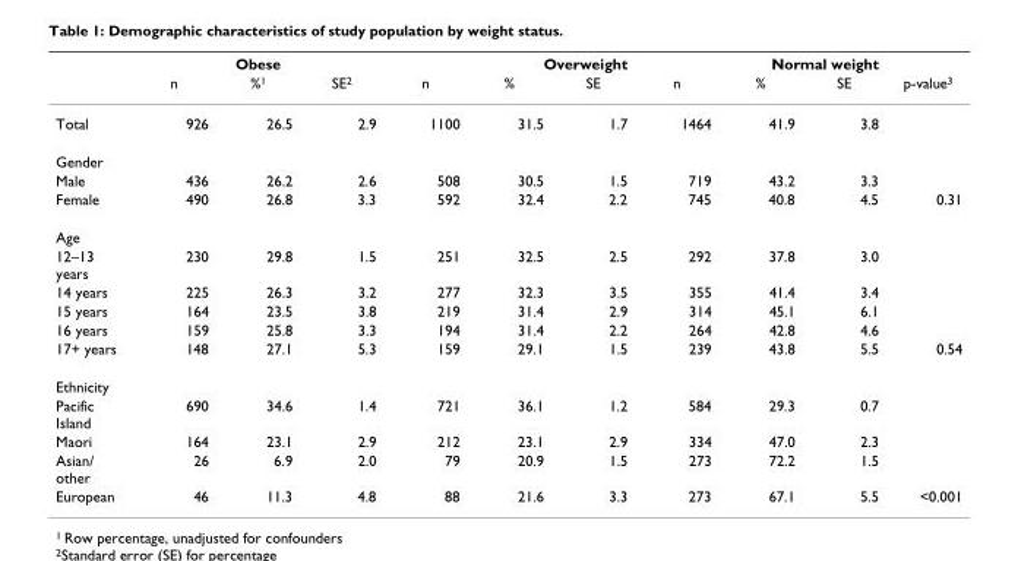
<table><thead><tr><td rowspan="2"></td><td colspan="3">Obese</td><td colspan="3">Overweight</td><td colspan="3">Normal weight</td><td rowspan="2">p-value<sup>3</sup></td></tr><tr><td>n</td><td>%<sup>1</sup></td><td>SE<sup>2</sup></td><td>n</td><td>%</td><td>SE</td><td>n</td><td>%</td><td>SE</td></tr></thead><tbody><tr><td>Total</td><td>926</td><td>26.5</td><td>2.9</td><td>1100</td><td>31.5</td><td>1.7</td><td>1464</td><td>41.9</td><td>3.8</td><td></td></tr><tr><td colspan="11">Gender</td></tr><tr><td>Male</td><td>436</td><td>26.2</td><td>2.6</td><td>508</td><td>30.5</td><td>1.5</td><td>719</td><td>43.2</td><td>3.3</td><td></td></tr><tr><td>Female</td><td>490</td><td>26.8</td><td>3.3</td><td>592</td><td>32.4</td><td>2.2</td><td>745</td><td>40.8</td><td>4.5</td><td>0.31</td></tr><tr><td colspan="11">Age</td></tr><tr><td>12–13 years</td><td>230</td><td>29.8</td><td>1.5</td><td>251</td><td>32.5</td><td>2.5</td><td>292</td><td>37.8</td><td>3.0</td><td></td></tr><tr><td>14 years</td><td>225</td><td>26.3</td><td>3.2</td><td>277</td><td>32.3</td><td>3.5</td><td>355</td><td>41.4</td><td>3.4</td><td></td></tr><tr><td>15 years</td><td>164</td><td>23.5</td><td>3.8</td><td>219</td><td>31.4</td><td>2.9</td><td>314</td><td>45.1</td><td>6.1</td><td></td></tr><tr><td>16 years</td><td>159</td><td>25.8</td><td>3.3</td><td>194</td><td>31.4</td><td>2.2</td><td>264</td><td>42.8</td><td>4.6</td><td></td></tr><tr><td>17+ years</td><td>148</td><td>27.1</td><td>5.3</td><td>159</td><td>29.1</td><td>1.5</td><td>239</td><td>43.8</td><td>5.5</td><td>0.54</td></tr><tr><td colspan="11">Ethnicity</td></tr><tr><td>Pacific Island</td><td>690</td><td>34.6</td><td>1.4</td><td>721</td><td>36.1</td><td>1.2</td><td>584</td><td>29.3</td><td>0.7</td><td></td></tr><tr><td>Maori</td><td>164</td><td>23.1</td><td>2.9</td><td>212</td><td>23.1</td><td>2.9</td><td>334</td><td>47.0</td><td>2.3</td><td></td></tr><tr><td>Asian/ other</td><td>26</td><td>6.9</td><td>2.0</td><td>79</td><td>20.9</td><td>1.5</td><td>273</td><td>72.2</td><td>1.5</td><td></td></tr><tr><td>European</td><td>46</td><td>11.3</td><td>4.8</td><td>88</td><td>21.6</td><td>3.3</td><td>273</td><td>67.1</td><td>5.5</td><td>&lt;0.001</td></tr></tbody></table>